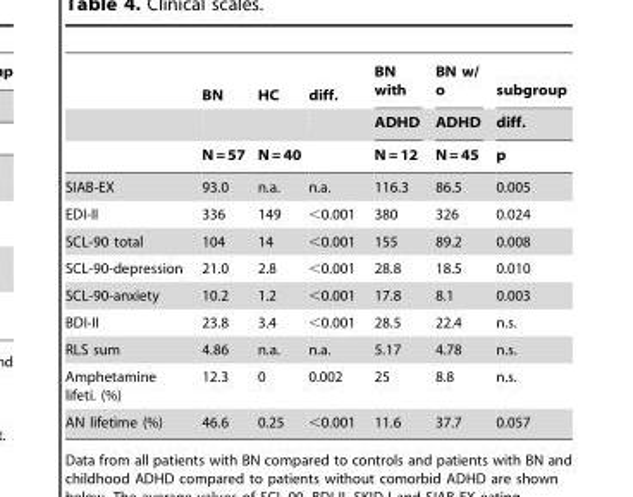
<table><thead><tr><td rowspan="3"></td><td rowspan="3">BN N = 57</td><td rowspan="3">HC N = 40</td><td rowspan="3">diff.</td><td rowspan="3">BN with ADHD N = 12</td><td rowspan="3">BN w/ o ADHD N = 45</td><td rowspan="3">subgroup diff. p</td></tr><tr></tr><tr></tr></thead><tbody><tr><td>SIAB-EX</td><td>93.0</td><td>n.a.</td><td>n.a.</td><td>116.3</td><td>86.5</td><td>0.005</td></tr><tr><td>EDI-II</td><td>336</td><td>149</td><td>&lt;0.001</td><td>380</td><td>326</td><td>0.024</td></tr><tr><td>SCL-90 total</td><td>104</td><td>14</td><td>&lt;0.001</td><td>155</td><td>89.2</td><td>0.008</td></tr><tr><td>SCL-90-depression</td><td>21.0</td><td>2.8</td><td>&lt;0.001</td><td>28.8</td><td>18.5</td><td>0.010</td></tr><tr><td>SCL-90-anxiety</td><td>10.2</td><td>1.2</td><td>&lt;0.001</td><td>17.8</td><td>8.1</td><td>0.003</td></tr><tr><td>BDI-II</td><td>23.8</td><td>3.4</td><td>&lt;0.001</td><td>28.5</td><td>22.4</td><td>n.s.</td></tr><tr><td>RLS sum</td><td>4.86</td><td>n.a.</td><td>n.a.</td><td>5.17</td><td>4.78</td><td>n.s.</td></tr><tr><td>Amphetamine lifeti. (%)</td><td>12.3</td><td>0</td><td>0.002</td><td>25</td><td>8.8</td><td>n.s.</td></tr><tr><td>AN lifetime (%)</td><td>46.6</td><td>0.25</td><td>&lt;0.001</td><td>11.6</td><td>37.7</td><td>0.057</td></tr></tbody></table>